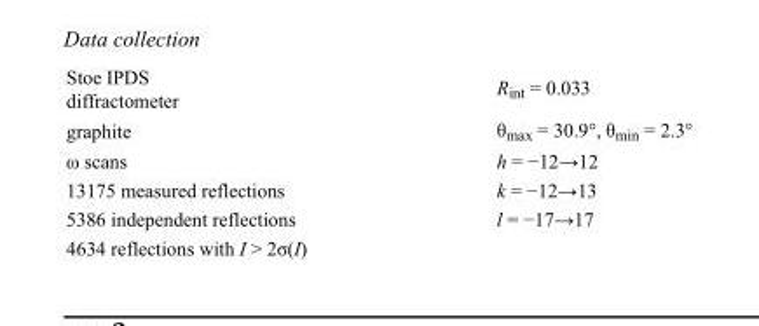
<table><tbody><tr><td>Stoe IPDS diffractometer</td><td>R<sub>int</sub> = 0.033</td></tr><tr><td>graphite</td><td>θ<sub>max</sub> = 30.9°, θ<sub>min</sub> = 2.3°</td></tr><tr><td>ω scans</td><td>h = −12→12</td></tr><tr><td>13175 measured reflections</td><td>k = −12→13</td></tr><tr><td>5386 independent reflections</td><td>l = −17→17</td></tr><tr><td>4634 reflections with I &gt; 2σ(I)</td><td></td></tr></tbody></table>